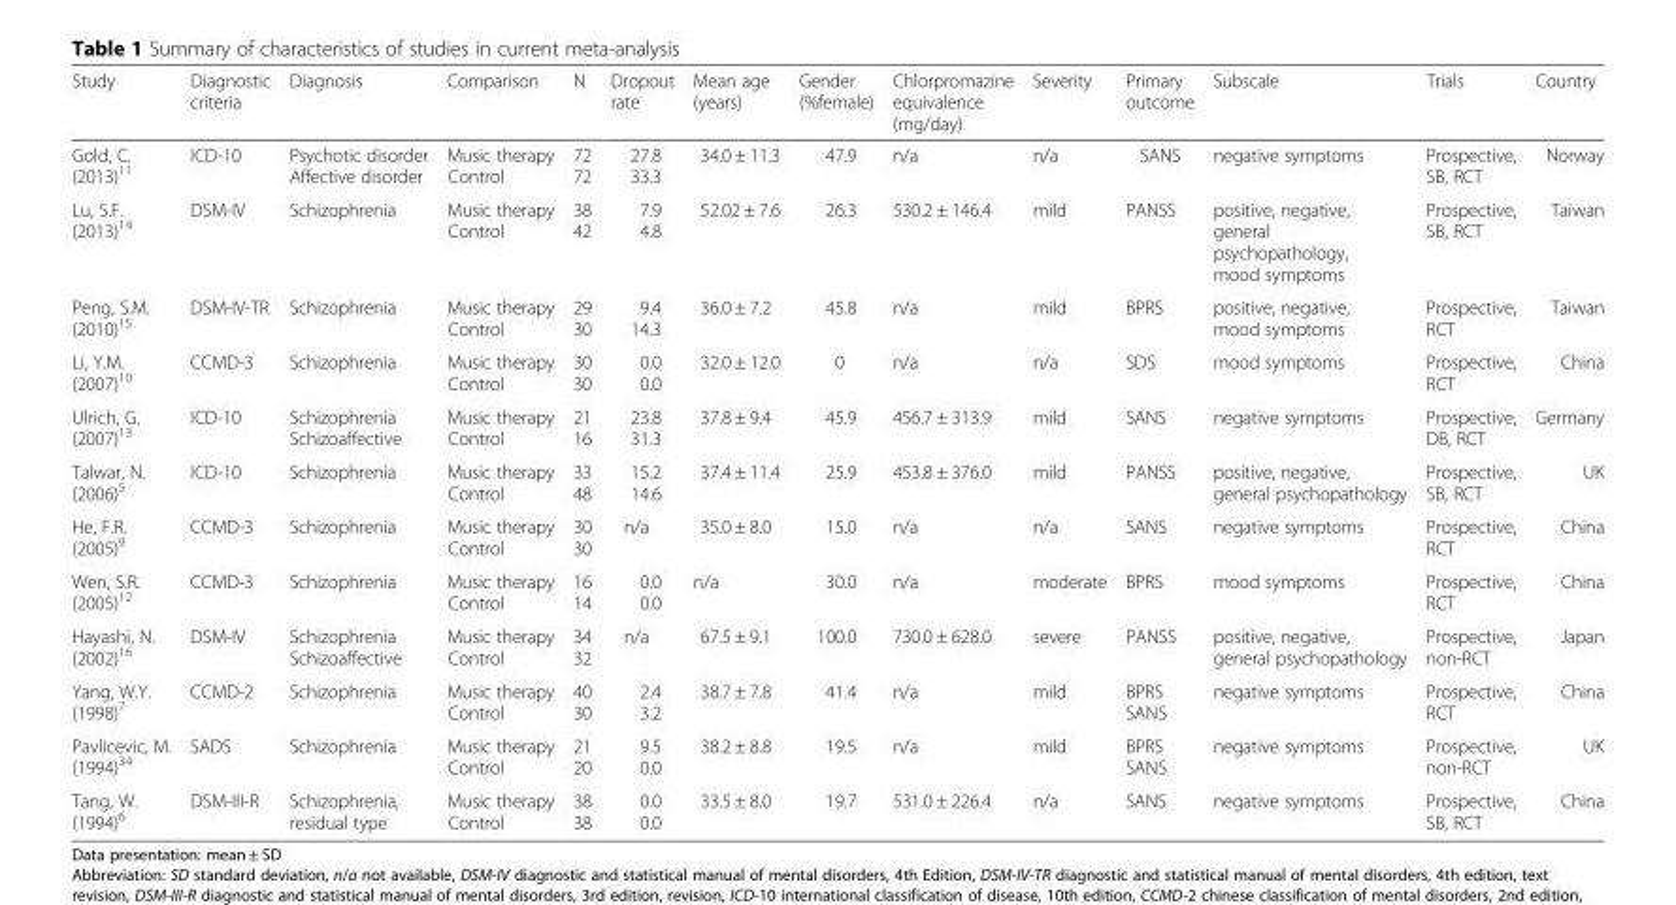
<table><thead><tr><td>Study</td><td>Diagnostic criteria</td><td>Diagnosis</td><td>Comparison</td><td>N</td><td>Dropout rate</td><td>Mean age (years)</td><td>Gender (%female)</td><td>Chlorpromazine equivalence (mg/day)</td><td>Severity</td><td>Primary outcome</td><td>Subscale</td><td>Trials</td><td>Country</td></tr></thead><tbody><tr><td>Gold, C. (2013)<sup>11</sup></td><td>ICD-10</td><td>Psychotic disorder Affective disorder</td><td>Music therapy Control</td><td>72 72</td><td>27.8 33.3</td><td>34.0 ± 11.3</td><td>47.9</td><td>n/a</td><td>n/a</td><td>SANS</td><td>negative symptoms</td><td>Prospective, SB, RCT</td><td>Norway</td></tr><tr><td>Lu, S.F. (2013)<sup>14</sup></td><td>DSM-IV</td><td>Schizophrenia</td><td>Music therapy Control</td><td>38 42</td><td>7.9 4.8</td><td>52.02 ± 7.6</td><td>26.3</td><td>530.2 ± 146.4</td><td>mild</td><td>PANSS</td><td>positive, negative, general psychopathology, mood symptoms</td><td>Prospective, SB, RCT</td><td>Taiwan</td></tr><tr><td>Peng, S.M. (2010)<sup>15</sup></td><td>DSM-IV-TR</td><td>Schizophrenia</td><td>Music therapy Control</td><td>29 30</td><td>9.4 14.3</td><td>36.0 ± 7.2</td><td>45.8</td><td>n/a</td><td>mild</td><td>BPRS</td><td>positive, negative, mood symptoms</td><td>Prospective, RCT</td><td>Taiwan</td></tr><tr><td>Li, Y.M. (2007)<sup>10</sup></td><td>CCMD-3</td><td>Schizophrenia</td><td>Music therapy Control</td><td>30 30</td><td>0.0 0.0</td><td>32.0 ± 12.0</td><td>0</td><td>n/a</td><td>n/a</td><td>SDS</td><td>mood symptoms</td><td>Prospective, RCT</td><td>China</td></tr><tr><td>Ulrich, G. (2007)<sup>13</sup></td><td>ICD-10</td><td>Schizophrenia Schizoaffective</td><td>Music therapy Control</td><td>21 16</td><td>23.8 31.3</td><td>37.8 ± 9.4</td><td>45.9</td><td>456.7 ± 313.9</td><td>mild</td><td>SANS</td><td>negative symptoms</td><td>Prospective, DB, RCT</td><td>Germany</td></tr><tr><td>Talwar, N. (2006)<sup>5</sup></td><td>ICD-10</td><td>Schizophrenia</td><td>Music therapy Control</td><td>33 48</td><td>15.2 14.6</td><td>37.4 ± 11.4</td><td>25.9</td><td>453.8 ± 376.0</td><td>mild</td><td>PANSS</td><td>positive, negative, general psychopathology</td><td>Prospective, SB, RCT</td><td>UK</td></tr><tr><td>He, F.R. (2005)<sup>9</sup></td><td>CCMD-3</td><td>Schizophrenia</td><td>Music therapy Control</td><td>30 30</td><td>n/a</td><td>35.0 ± 8.0</td><td>15.0</td><td>n/a</td><td>n/a</td><td>SANS</td><td>negative symptoms</td><td>Prospective, RCT</td><td>China</td></tr><tr><td>Wen, S.R. (2005)<sup>12</sup></td><td>CCMD-3</td><td>Schizophrenia</td><td>Music therapy Control</td><td>16 14</td><td>0.0 0.0</td><td>n/a</td><td>30.0</td><td>n/a</td><td>moderate</td><td>BPRS</td><td>mood symptoms</td><td>Prospective, RCT</td><td>China</td></tr><tr><td>Hayashi, N. (2002)<sup>16</sup></td><td>DSM-IV</td><td>Schizophrenia Schizoaffective</td><td>Music therapy Control</td><td>34 32</td><td>n/a</td><td>67.5 ± 9.1</td><td>100.0</td><td>730.0 ± 628.0</td><td>severe</td><td>PANSS</td><td>positive, negative, general psychopathology</td><td>Prospective, non-RCT</td><td>Japan</td></tr><tr><td>Yang, W.Y. (1998)<sup>7</sup></td><td>CCMD-2</td><td>Schizophrenia</td><td>Music therapy Control</td><td>40 30</td><td>2.4 3.2</td><td>38.7 ± 7.8</td><td>41.4</td><td>n/a</td><td>mild</td><td>BPRS SANS</td><td>negative symptoms</td><td>Prospective, RCT</td><td>China</td></tr><tr><td>Pavlicevic, M. (1994)<sup>34</sup></td><td>SADS</td><td>Schizophrenia</td><td>Music therapy Control</td><td>21 20</td><td>9.5 0.0</td><td>38.2 ± 8.8</td><td>19.5</td><td>n/a</td><td>mild</td><td>BPRS SANS</td><td>negative symptoms</td><td>Prospective, non-RCT</td><td>UK</td></tr><tr><td>Tang, W. (1994)<sup>6</sup></td><td>DSM-III-R</td><td>Schizophrenia, residual type</td><td>Music therapy Control</td><td>38 38</td><td>0.0 0.0</td><td>33.5 ± 8.0</td><td>19.7</td><td>531.0 ± 226.4</td><td>n/a</td><td>SANS</td><td>negative symptoms</td><td>Prospective, SB, RCT</td><td>China</td></tr></tbody></table>